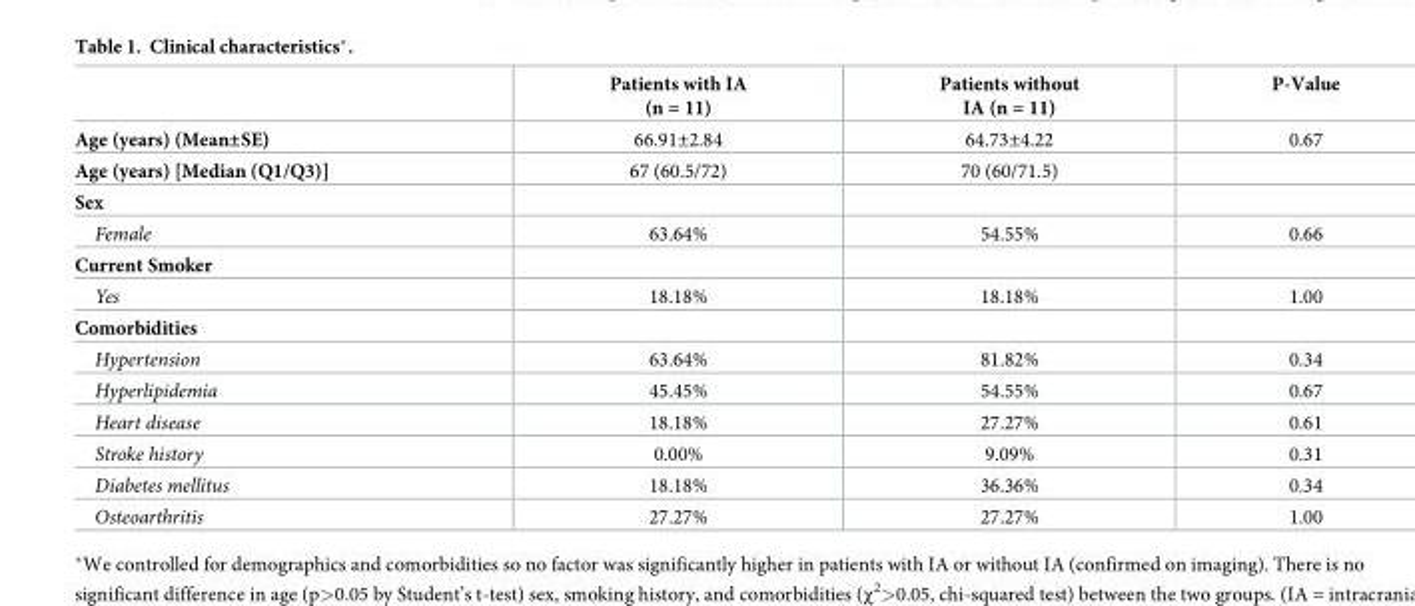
<table><thead><tr><td></td><td>Patients with IA (n = 11)</td><td>Patients without IA (n = 11)</td><td>P-Value</td></tr></thead><tbody><tr><td>Age (years) (Mean±SE)</td><td>66.91±2.84</td><td>64.73±4.22</td><td>0.67</td></tr><tr><td>Age (years) [Median (Q1/Q3)]</td><td>67 (60.5/72)</td><td>70 (60/71.5)</td><td></td></tr><tr><td colspan="4">Sex</td></tr><tr><td>Female</td><td>63.64%</td><td>54.55%</td><td>0.66</td></tr><tr><td colspan="4">Current Smoker</td></tr><tr><td>Yes</td><td>18.18%</td><td>18.18%</td><td>1.00</td></tr><tr><td colspan="4">Comorbidities</td></tr><tr><td>Hypertension</td><td>63.64%</td><td>81.82%</td><td>0.34</td></tr><tr><td>Hyperlipidemia</td><td>45.45%</td><td>54.55%</td><td>0.67</td></tr><tr><td>Heart disease</td><td>18.18%</td><td>27.27%</td><td>0.61</td></tr><tr><td>Stroke history</td><td>0.00%</td><td>9.09%</td><td>0.31</td></tr><tr><td>Diabetes mellitus</td><td>18.18%</td><td>36.36%</td><td>0.34</td></tr><tr><td>Osteoarthritis</td><td>27.27%</td><td>27.27%</td><td>1.00</td></tr></tbody></table>